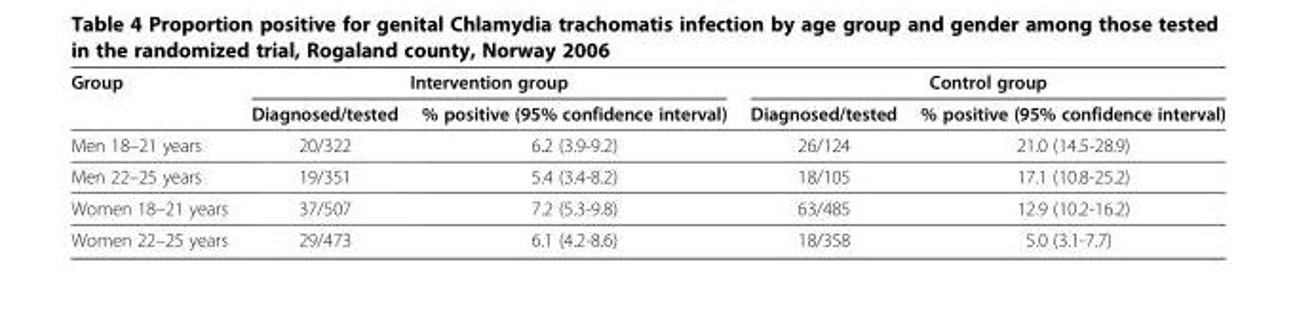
<table><thead><tr><td rowspan="2">Group</td><td colspan="2">Intervention group</td><td colspan="2">Control group</td></tr><tr><td>Diagnosed/tested</td><td>% positive (95% confidence interval)</td><td>Diagnosed/tested</td><td>% positive (95% confidence interval)</td></tr></thead><tbody><tr><td>Men 18–21 years</td><td>20/322</td><td>6.2 (3.9-9.2)</td><td>26/124</td><td>21.0 (14.5-28.9)</td></tr><tr><td>Men 22–25 years</td><td>19/351</td><td>5.4 (3.4-8.2)</td><td>18/105</td><td>17.1 (10.8-25.2)</td></tr><tr><td>Women 18–21 years</td><td>37/507</td><td>7.2 (5.3-9.8)</td><td>63/485</td><td>12.9 (10.2-16.2)</td></tr><tr><td>Women 22–25 years</td><td>29/473</td><td>6.1 (4.2-8.6)</td><td>18/358</td><td>5.0 (3.1-7.7)</td></tr></tbody></table>